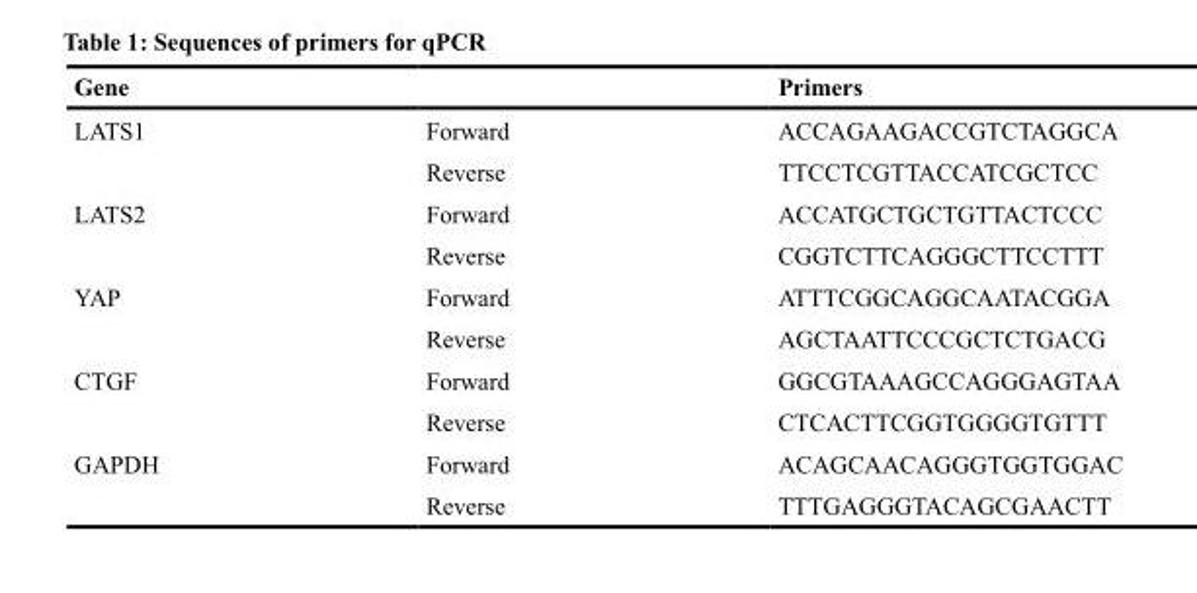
<table><thead><tr><td>Gene</td><td></td><td>Primers</td></tr></thead><tbody><tr><td rowspan="2">LATS1</td><td>Forward</td><td>ACCAGAAGACCGTCTAGGCA</td></tr><tr><td>Reverse</td><td>TTCCTCGTTACCATCGCTCC</td></tr><tr><td rowspan="2">LATS2</td><td>Forward</td><td>ACCATGCTGCTGTTACTCCC</td></tr><tr><td>Reverse</td><td>CGGTCTTCAGGGCTTCCTTT</td></tr><tr><td rowspan="2">YAP</td><td>Forward</td><td>ATTTCGGCAGGCAATACGGA</td></tr><tr><td>Reverse</td><td>AGCTAATTCCCGCTCTGACG</td></tr><tr><td rowspan="2">CTGF</td><td>Forward</td><td>GGCGTAAAGCCAGGGAGTAA</td></tr><tr><td>Reverse</td><td>CTCACTTCGGTGGGGTGTTT</td></tr><tr><td rowspan="2">GAPDH</td><td>Forward</td><td>ACAGCAACAGGGTGGTGGAC</td></tr><tr><td>Reverse</td><td>TTTGAGGGTACAGCGAACTT</td></tr></tbody></table>